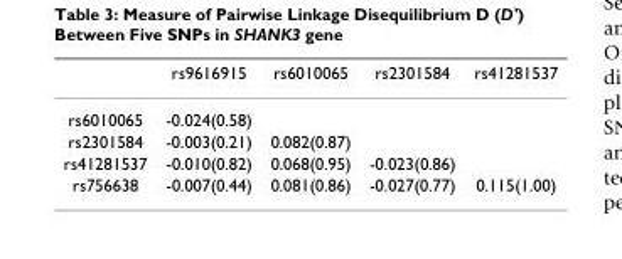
<table><thead><tr><td></td><td>rs9616915</td><td>rs6010065</td><td>rs2301584</td><td>rs41281537</td></tr></thead><tbody><tr><td>rs6010065</td><td>-0.024(0.58)</td><td></td><td></td><td></td></tr><tr><td>rs2301584</td><td>-0.003(0.21)</td><td>0.082(0.87)</td><td></td><td></td></tr><tr><td>rs41281537</td><td>-0.010(0.82)</td><td>0.068(0.95)</td><td>-0.023(0.86)</td><td></td></tr><tr><td>rs756638</td><td>-0.007(0.44)</td><td>0.081(0.86)</td><td>-0.027(0.77)</td><td>0.115(1.00)</td></tr></tbody></table>